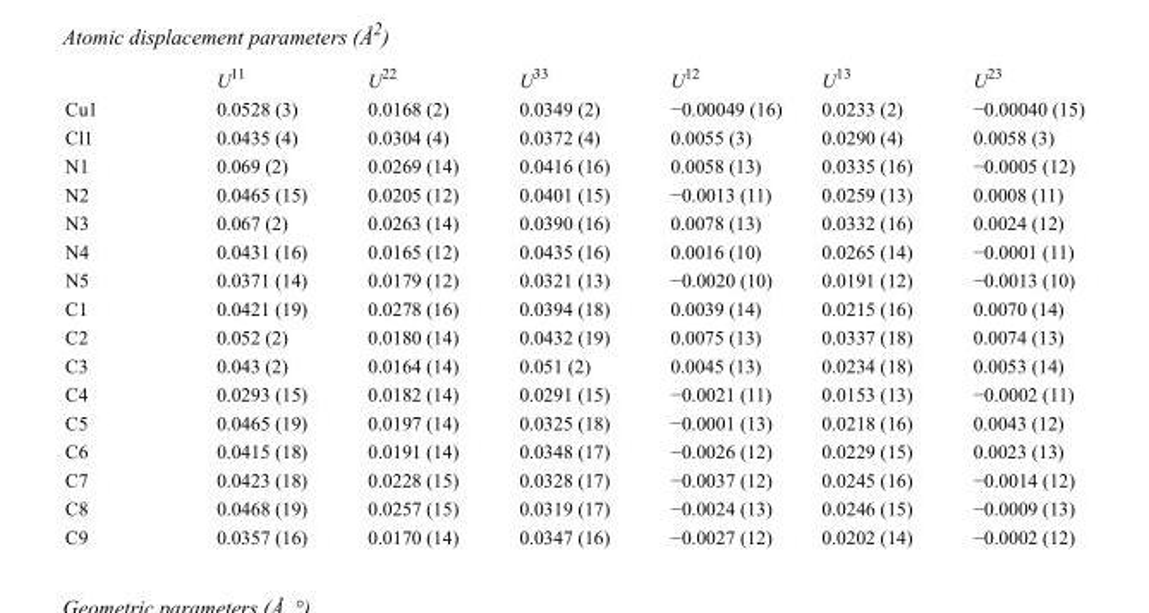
<table><thead><tr><td></td><td>U<sup>11</sup></td><td>U<sup>22</sup></td><td>U<sup>33</sup></td><td>U<sup>12</sup></td><td>U<sup>13</sup></td><td>U<sup>23</sup></td></tr></thead><tbody><tr><td>Cu1</td><td>0.0528 (3)</td><td>0.0168 (2)</td><td>0.0349 (2)</td><td>−0.00049 (16)</td><td>0.0233 (2)</td><td>−0.00040 (15)</td></tr><tr><td>Cl1</td><td>0.0435 (4)</td><td>0.0304 (4)</td><td>0.0372 (4)</td><td>0.0055 (3)</td><td>0.0290 (4)</td><td>0.0058 (3)</td></tr><tr><td>N1</td><td>0.069 (2)</td><td>0.0269 (14)</td><td>0.0416 (16)</td><td>0.0058 (13)</td><td>0.0335 (16)</td><td>−0.0005 (12)</td></tr><tr><td>N2</td><td>0.0465 (15)</td><td>0.0205 (12)</td><td>0.0401 (15)</td><td>−0.0013 (11)</td><td>0.0259 (13)</td><td>0.0008 (11)</td></tr><tr><td>N3</td><td>0.067 (2)</td><td>0.0263 (14)</td><td>0.0390 (16)</td><td>0.0078 (13)</td><td>0.0332 (16)</td><td>0.0024 (12)</td></tr><tr><td>N4</td><td>0.0431 (16)</td><td>0.0165 (12)</td><td>0.0435 (16)</td><td>0.0016 (10)</td><td>0.0265 (14)</td><td>−0.0001 (11)</td></tr><tr><td>N5</td><td>0.0371 (14)</td><td>0.0179 (12)</td><td>0.0321 (13)</td><td>−0.0020 (10)</td><td>0.0191 (12)</td><td>−0.0013 (10)</td></tr><tr><td>C1</td><td>0.0421 (19)</td><td>0.0278 (16)</td><td>0.0394 (18)</td><td>0.0039 (14)</td><td>0.0215 (16)</td><td>0.0070 (14)</td></tr><tr><td>C2</td><td>0.052 (2)</td><td>0.0180 (14)</td><td>0.0432 (19)</td><td>0.0075 (13)</td><td>0.0337 (18)</td><td>0.0074 (13)</td></tr><tr><td>C3</td><td>0.043 (2)</td><td>0.0164 (14)</td><td>0.051 (2)</td><td>0.0045 (13)</td><td>0.0234 (18)</td><td>0.0053 (14)</td></tr><tr><td>C4</td><td>0.0293 (15)</td><td>0.0182 (14)</td><td>0.0291 (15)</td><td>−0.0021 (11)</td><td>0.0153 (13)</td><td>−0.0002 (11)</td></tr><tr><td>C5</td><td>0.0465 (19)</td><td>0.0197 (14)</td><td>0.0325 (18)</td><td>−0.0001 (13)</td><td>0.0218 (16)</td><td>0.0043 (12)</td></tr><tr><td>C6</td><td>0.0415 (18)</td><td>0.0191 (14)</td><td>0.0348 (17)</td><td>−0.0026 (12)</td><td>0.0229 (15)</td><td>0.0023 (13)</td></tr><tr><td>C7</td><td>0.0423 (18)</td><td>0.0228 (15)</td><td>0.0328 (17)</td><td>−0.0037 (12)</td><td>0.0245 (16)</td><td>−0.0014 (12)</td></tr><tr><td>C8</td><td>0.0468 (19)</td><td>0.0257 (15)</td><td>0.0319 (17)</td><td>−0.0024 (13)</td><td>0.0246 (15)</td><td>−0.0009 (13)</td></tr><tr><td>C9</td><td>0.0357 (16)</td><td>0.0170 (14)</td><td>0.0347 (16)</td><td>−0.0027 (12)</td><td>0.0202 (14)</td><td>−0.0002 (12)</td></tr></tbody></table>